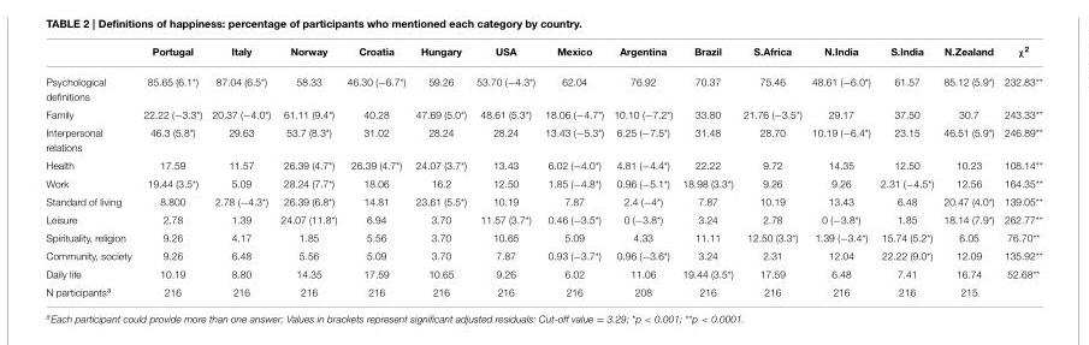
<table><thead><tr><td></td><td>Portugal</td><td>Italy</td><td>Norway</td><td>Croatia</td><td>Hungary</td><td>USA</td><td>Mexico</td><td>Argentina</td><td>Brazil</td><td>S.Africa</td><td>N.India</td><td>S.India</td><td>N.Zealand</td><td>χ<sup>2</sup></td></tr></thead><tbody><tr><td>Psychological definitions</td><td>85.65 (6.1*)</td><td>87.04 (6.5*)</td><td>58.33</td><td>46.30 (−6.7*)</td><td>59.26</td><td>53.70 (−4.3*)</td><td>62.04</td><td>76.92</td><td>70.37</td><td>75.46</td><td>48.61 (−6.0*)</td><td>61.57</td><td>85.12 (5.9*)</td><td>232.83**</td></tr><tr><td>Family</td><td>22.22 (−3.3*)</td><td>20.37 (−4.0*)</td><td>61.11 (9.4*)</td><td>40.28</td><td>47.69 (5.0*)</td><td>48.61 (5.3*)</td><td>18.06 (−4.7*)</td><td>10.10 (−7.2*)</td><td>33.80</td><td>21.76 (−3.5*)</td><td>29.17</td><td>37.50</td><td>30.7</td><td>243.33**</td></tr><tr><td>Interpersonal relations</td><td>46.3 (5.8*)</td><td>29.63</td><td>53.7 (8.3*)</td><td>31.02</td><td>28.24</td><td>28.24</td><td>13.43 (−5.3*)</td><td>6.25 (−7.5*)</td><td>31.48</td><td>28.70</td><td>10.19 (−6.4*)</td><td>23.15</td><td>46.51 (5.9*)</td><td>246.89**</td></tr><tr><td>Health</td><td>17.59</td><td>11.57</td><td>26.39 (4.7*)</td><td>26.39 (4.7*)</td><td>24.07 (3.7*)</td><td>13.43</td><td>6.02 (−4.0*)</td><td>4.81 (−4.4*)</td><td>22.22</td><td>9.72</td><td>14.35</td><td>12.50</td><td>10.23</td><td>108.14**</td></tr><tr><td>Work</td><td>19.44 (3.5*)</td><td>5.09</td><td>28.24 (7.7*)</td><td>18.06</td><td>16.2</td><td>12.50</td><td>1.85 (−4.8*)</td><td>0.96 (−5.1*)</td><td>18.98 (3.3*)</td><td>9.26</td><td>9.26</td><td>2.31 (−4.5*)</td><td>12.56</td><td>164.35**</td></tr><tr><td>Standard of living</td><td>8.800</td><td>2.78 (−4.3*)</td><td>26.39 (6.8*)</td><td>14.81</td><td>23.61 (5.5*)</td><td>10.19</td><td>7.87</td><td>2.4 (−4*)</td><td>7.87</td><td>10.19</td><td>13.43</td><td>6.48</td><td>20.47 (4.0*)</td><td>139.05**</td></tr><tr><td>Leisure</td><td>2.78</td><td>1.39</td><td>24.07 (11.8*)</td><td>6.94</td><td>3.70</td><td>11.57 (3.7*)</td><td>0.46 (−3.5*)</td><td>0 (−3.8*)</td><td>3.24</td><td>2.78</td><td>0 (−3.8*)</td><td>1.85</td><td>18.14 (7.9*)</td><td>262.77**</td></tr><tr><td>Spirituality, religion</td><td>9.26</td><td>4.17</td><td>1.85</td><td>5.56</td><td>3.70</td><td>10.65</td><td>5.09</td><td>4.33</td><td>11.11</td><td>12.50 (3.3*)</td><td>1.39 (−3.4*)</td><td>15.74 (5.2*)</td><td>6.05</td><td>76.70**</td></tr><tr><td>Community, society</td><td>9.26</td><td>6.48</td><td>5.56</td><td>5.09</td><td>3.70</td><td>7.87</td><td>0.93 (−3.7*)</td><td>0.96 (−3.6*)</td><td>3.24</td><td>2.31</td><td>12.04</td><td>22.22 (9.0*)</td><td>12.09</td><td>135.92**</td></tr><tr><td>Daily life</td><td>10.19</td><td>8.80</td><td>14.35</td><td>17.59</td><td>10.65</td><td>9.26</td><td>6.02</td><td>11.06</td><td>19.44 (3.5*)</td><td>17.59</td><td>6.48</td><td>7.41</td><td>16.74</td><td>52.68**</td></tr><tr><td>N participants<sup>a</sup></td><td>216</td><td>216</td><td>216</td><td>216</td><td>216</td><td>216</td><td>216</td><td>208</td><td>216</td><td>216</td><td>216</td><td>216</td><td>215</td><td></td></tr></tbody></table>